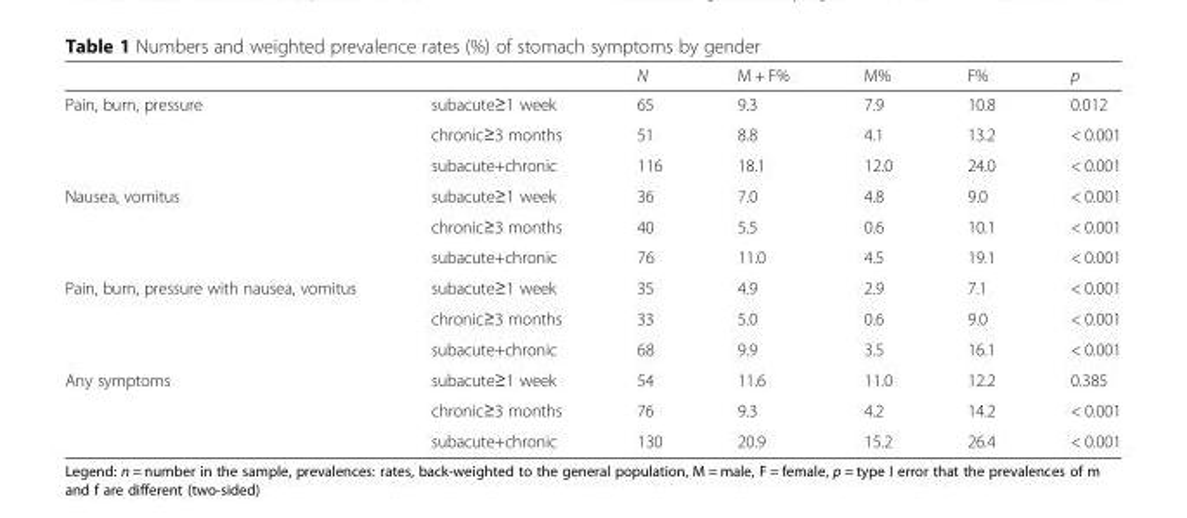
<table><thead><tr><td></td><td></td><td>N</td><td>M + F%</td><td>M%</td><td>F%</td><td>p</td></tr></thead><tbody><tr><td rowspan="3">Pain, burn, pressure</td><td>subacute≥1 week</td><td>65</td><td>9.3</td><td>7.9</td><td>10.8</td><td>0.012</td></tr><tr><td>chronic≥3 months</td><td>51</td><td>8.8</td><td>4.1</td><td>13.2</td><td>&lt; 0.001</td></tr><tr><td>subacute+chronic</td><td>116</td><td>18.1</td><td>12.0</td><td>24.0</td><td>&lt; 0.001</td></tr><tr><td rowspan="3">Nausea, vomitus</td><td>subacute≥1 week</td><td>36</td><td>7.0</td><td>4.8</td><td>9.0</td><td>&lt; 0.001</td></tr><tr><td>chronic≥3 months</td><td>40</td><td>5.5</td><td>0.6</td><td>10.1</td><td>&lt; 0.001</td></tr><tr><td>subacute+chronic</td><td>76</td><td>11.0</td><td>4.5</td><td>19.1</td><td>&lt; 0.001</td></tr><tr><td rowspan="3">Pain, burn, pressure with nausea, vomitus</td><td>subacute≥1 week</td><td>35</td><td>4.9</td><td>2.9</td><td>7.1</td><td>&lt; 0.001</td></tr><tr><td>chronic≥3 months</td><td>33</td><td>5.0</td><td>0.6</td><td>9.0</td><td>&lt; 0.001</td></tr><tr><td>subacute+chronic</td><td>68</td><td>9.9</td><td>3.5</td><td>16.1</td><td>&lt; 0.001</td></tr><tr><td rowspan="3">Any symptoms</td><td>subacute≥1 week</td><td>54</td><td>11.6</td><td>11.0</td><td>12.2</td><td>0.385</td></tr><tr><td>chronic≥3 months</td><td>76</td><td>9.3</td><td>4.2</td><td>14.2</td><td>&lt; 0.001</td></tr><tr><td>subacute+chronic</td><td>130</td><td>20.9</td><td>15.2</td><td>26.4</td><td>&lt; 0.001</td></tr></tbody></table>